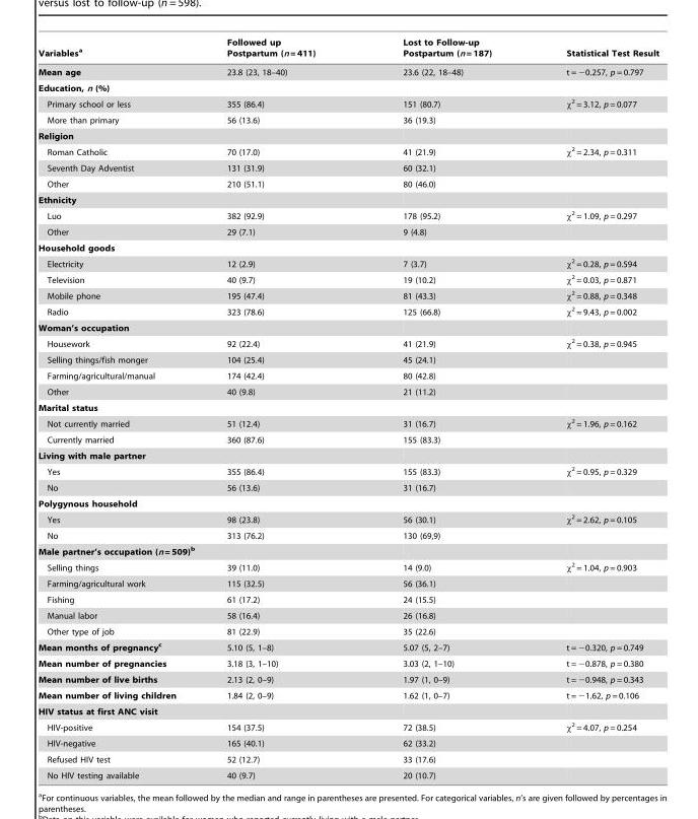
<table><thead><tr><td>Variables<sup>a</sup></td><td>Followed up Postpartum (n = 411)</td><td>Lost to Follow-up Postpartum (n = 187)</td><td>Statistical Test Result</td></tr></thead><tbody><tr><td>Mean age</td><td>23.8 (23, 18–40)</td><td>23.6 (22, 18–48)</td><td>t = −0.257, p = 0.797</td></tr><tr><td colspan="4">Education, n (%)</td></tr><tr><td>Primary school or less</td><td>355 (86.4)</td><td>151 (80.7)</td><td>χ<sup>2</sup> = 3.12, p = 0.077</td></tr><tr><td>More than primary</td><td>56 (13.6)</td><td>36 (19.3)</td><td></td></tr><tr><td colspan="4">Religion</td></tr><tr><td>Roman Catholic</td><td>70 (17.0)</td><td>41 (21.9)</td><td>χ<sup>2</sup> = 2.34, p = 0.311</td></tr><tr><td>Seventh Day Adventist</td><td>131 (31.9)</td><td>60 (32.1)</td><td></td></tr><tr><td>Other</td><td>210 (51.1)</td><td>80 (46.0)</td><td></td></tr><tr><td colspan="4">Ethnicity</td></tr><tr><td>Luo</td><td>382 (92.9)</td><td>178 (95.2)</td><td>χ<sup>2</sup> = 1.09, p = 0.297</td></tr><tr><td>Other</td><td>29 (7.1)</td><td>9 (4.8)</td><td></td></tr><tr><td colspan="4">Household goods</td></tr><tr><td>Electricity</td><td>12 (2.9)</td><td>7 (3.7)</td><td>χ<sup>2</sup> = 0.28, p = 0.594</td></tr><tr><td>Television</td><td>40 (9.7)</td><td>19 (10.2)</td><td>χ<sup>2</sup> = 0.03, p = 0.871</td></tr><tr><td>Mobile phone</td><td>195 (47.4)</td><td>81 (43.3)</td><td>χ<sup>2</sup> = 0.88, p = 0.348</td></tr><tr><td>Radio</td><td>323 (78.6)</td><td>125 (66.8)</td><td>χ<sup>2</sup> = 9.43, p = 0.002</td></tr><tr><td colspan="4">Woman’s occupation</td></tr><tr><td>Housework</td><td>92 (22.4)</td><td>41 (21.9)</td><td>χ<sup>2</sup> = 0.38, p = 0.945</td></tr><tr><td>Selling things/fish monger</td><td>104 (25.4)</td><td>45 (24.1)</td><td></td></tr><tr><td>Farming/agricultural/manual</td><td>174 (42.4)</td><td>80 (42.8)</td><td></td></tr><tr><td>Other</td><td>40 (9.8)</td><td>21 (11.2)</td><td></td></tr><tr><td colspan="4">Marital status</td></tr><tr><td>Not currently married</td><td>51 (12.4)</td><td>31 (16.7)</td><td>χ<sup>2</sup> = 1.96, p = 0.162</td></tr><tr><td>Currently married</td><td>360 (87.6)</td><td>155 (83.3)</td><td></td></tr><tr><td colspan="4">Living with male partner</td></tr><tr><td>Yes</td><td>355 (86.4)</td><td>155 (83.3)</td><td>χ<sup>2</sup> = 0.95, p = 0.329</td></tr><tr><td>No</td><td>56 (13.6)</td><td>31 (16.7)</td><td></td></tr><tr><td colspan="4">Polygynous household</td></tr><tr><td>Yes</td><td>98 (23.8)</td><td>56 (30.1)</td><td>χ<sup>2</sup> = 2.62, p = 0.105</td></tr><tr><td>No</td><td>313 (76.2)</td><td>130 (69,9)</td><td></td></tr><tr><td colspan="4">Male partner’s occupation (n = 509)b</td></tr><tr><td>Selling things</td><td>39 (11.0)</td><td>14 (9.0)</td><td>χ<sup>2</sup> = 1.04, p = 0.903</td></tr><tr><td>Farming/agricultural work</td><td>115 (32.5)</td><td>56 (36.1)</td><td></td></tr><tr><td>Fishing</td><td>61 (17.2)</td><td>24 (15.5)</td><td></td></tr><tr><td>Manual labor</td><td>58 (16.4)</td><td>26 (16.8)</td><td></td></tr><tr><td>Other type of job</td><td>81 (22.9)</td><td>35 (22.6)</td><td></td></tr><tr><td>Mean months of pregnancyc</td><td>5.10 (5, 1–8)</td><td>5.07 (5, 2–7)</td><td>t = −0.320, p = 0.749</td></tr><tr><td>Mean number of pregnancies</td><td>3.18 (3, 1–10)</td><td>3.03 (2, 1–10)</td><td>t = −0.878, p = 0.380</td></tr><tr><td>Mean number of live births</td><td>2.13 (2, 0–9)</td><td>1.97 (1, 0–9)</td><td>t = −0.948, p = 0.343</td></tr><tr><td>Mean number of living children</td><td>1.84 (2, 0–9)</td><td>1.62 (1, 0–7)</td><td>t = −1.62, p = 0.106</td></tr><tr><td colspan="4">HIV status at first ANC visit</td></tr><tr><td>HIV-positive</td><td>154 (37.5)</td><td>72 (38.5)</td><td>χ<sup>2</sup> = 4.07, p = 0.254</td></tr><tr><td>HIV-negative</td><td>165 (40.1)</td><td>62 (33.2)</td><td></td></tr><tr><td>Refused HIV test</td><td>52 (12.7)</td><td>33 (17.6)</td><td></td></tr><tr><td>No HIV testing available</td><td>40 (9.7)</td><td>20 (10.7)</td><td></td></tr></tbody></table>